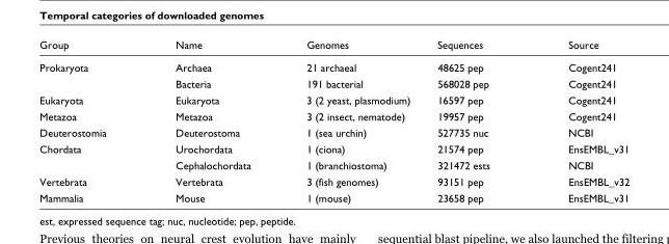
<table><thead><tr><td>Group</td><td>Name</td><td>Genomes</td><td>Sequences</td><td>Source</td></tr></thead><tbody><tr><td rowspan="2">Prokaryota</td><td>Archaea</td><td>21 archaeal</td><td>48625 pep</td><td>Cogent241</td></tr><tr><td>Bacteria</td><td>191 bacterial</td><td>568028 pep</td><td>Cogent241</td></tr><tr><td>Eukaryota</td><td>Eukaryota</td><td>3 (2 yeast, plasmodium)</td><td>16597 pep</td><td>Cogent241</td></tr><tr><td>Metazoa</td><td>Metazoa</td><td>3 (2 insect, nematode)</td><td>19957 pep</td><td>Cogent241</td></tr><tr><td>Deuterostomia</td><td>Deuterostoma</td><td>1 (sea urchin)</td><td>527735 nuc</td><td>NCBI</td></tr><tr><td rowspan="2">Chordata</td><td>Urochordata</td><td>1 (ciona)</td><td>21574 pep</td><td>EnsEMBL_v31</td></tr><tr><td>Cephalochordata</td><td>1 (branchiostoma)</td><td>321472 ests</td><td>NCBI</td></tr><tr><td>Vertebrata</td><td>Vertebrata</td><td>3 (fish genomes)</td><td>93151 pep</td><td>EnsEMBL_v32</td></tr><tr><td>Mammalia</td><td>Mouse</td><td>1 (mouse)</td><td>23658 pep</td><td>EnsEMBL_v31</td></tr></tbody></table>